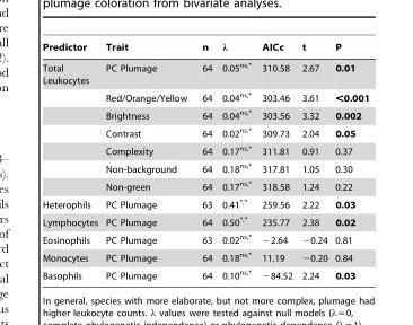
<table><thead><tr><td>Predictor</td><td>Trait</td><td>n</td><td>λ</td><td>AICc</td><td>t</td><td>P</td></tr></thead><tbody><tr><td rowspan="7">Total Leukocytes</td><td>PC Plumage</td><td>64</td><td>0.05<sup>ns,*</sup></td><td>310.58</td><td>2.67</td><td>0.01</td></tr><tr><td>Red/Orange/Yellow</td><td>64</td><td>0.04<sup>ns,*</sup></td><td>303.46</td><td>3.61</td><td>&lt;0.001</td></tr><tr><td>Brightness</td><td>64</td><td>0.04<sup>ns,*</sup></td><td>303.56</td><td>3.32</td><td>0.002</td></tr><tr><td>Contrast</td><td>64</td><td>0.02<sup>ns,*</sup></td><td>309.73</td><td>2.04</td><td>0.05</td></tr><tr><td>Complexity</td><td>64</td><td>0.17<sup>ns,*</sup></td><td>311.81</td><td>0.91</td><td>0.37</td></tr><tr><td>Non-background</td><td>64</td><td>0.18<sup>ns,*</sup></td><td>317.81</td><td>1.05</td><td>0.30</td></tr><tr><td>Non-green</td><td>64</td><td>0.17<sup>ns,*</sup></td><td>318.58</td><td>1.24</td><td>0.22</td></tr><tr><td>Heterophils</td><td>PC Plumage</td><td>63</td><td>0.41<sup>*,*</sup></td><td>259.56</td><td>2.22</td><td>0.03</td></tr><tr><td>Lymphocytes</td><td>PC Plumage</td><td>64</td><td>0.50<sup>*,*</sup></td><td>235.77</td><td>2.38</td><td>0.02</td></tr><tr><td>Eosinophils</td><td>PC Plumage</td><td>63</td><td>0.02<sup>ns,*</sup></td><td>−2.64</td><td>−0.24</td><td>0.81</td></tr><tr><td>Monocytes</td><td>PC Plumage</td><td>64</td><td>0.18<sup>ns,*</sup></td><td>11.19</td><td>−0.20</td><td>0.84</td></tr><tr><td>Basophils</td><td>PC Plumage</td><td>64</td><td>0.10<sup>ns,*</sup></td><td>−84.52</td><td>2.24</td><td>0.03</td></tr></tbody></table>